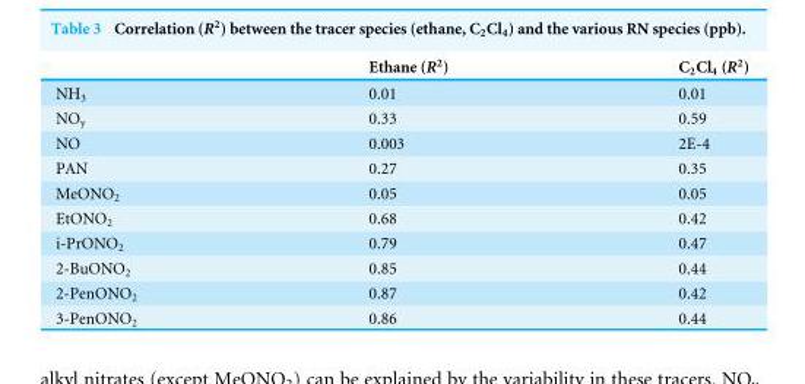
<table><thead><tr><td></td><td>Ethane (R<sup>2</sup>)</td><td>C<sub>2</sub>Cl<sub>4</sub> (R<sup>2</sup>)</td></tr></thead><tbody><tr><td>NH<sub>3</sub></td><td>0.01</td><td>0.01</td></tr><tr><td>NO<sub>y</sub></td><td>0.33</td><td>0.59</td></tr><tr><td>NO</td><td>0.003</td><td>2E-4</td></tr><tr><td>PAN</td><td>0.27</td><td>0.35</td></tr><tr><td>MeONO<sub>2</sub></td><td>0.05</td><td>0.05</td></tr><tr><td>EtONO<sub>2</sub></td><td>0.68</td><td>0.42</td></tr><tr><td>i-PrONO<sub>2</sub></td><td>0.79</td><td>0.47</td></tr><tr><td>2-BuONO<sub>2</sub></td><td>0.85</td><td>0.44</td></tr><tr><td>2-PenONO<sub>2</sub></td><td>0.87</td><td>0.42</td></tr><tr><td>3-PenONO<sub>2</sub></td><td>0.86</td><td>0.44</td></tr></tbody></table>